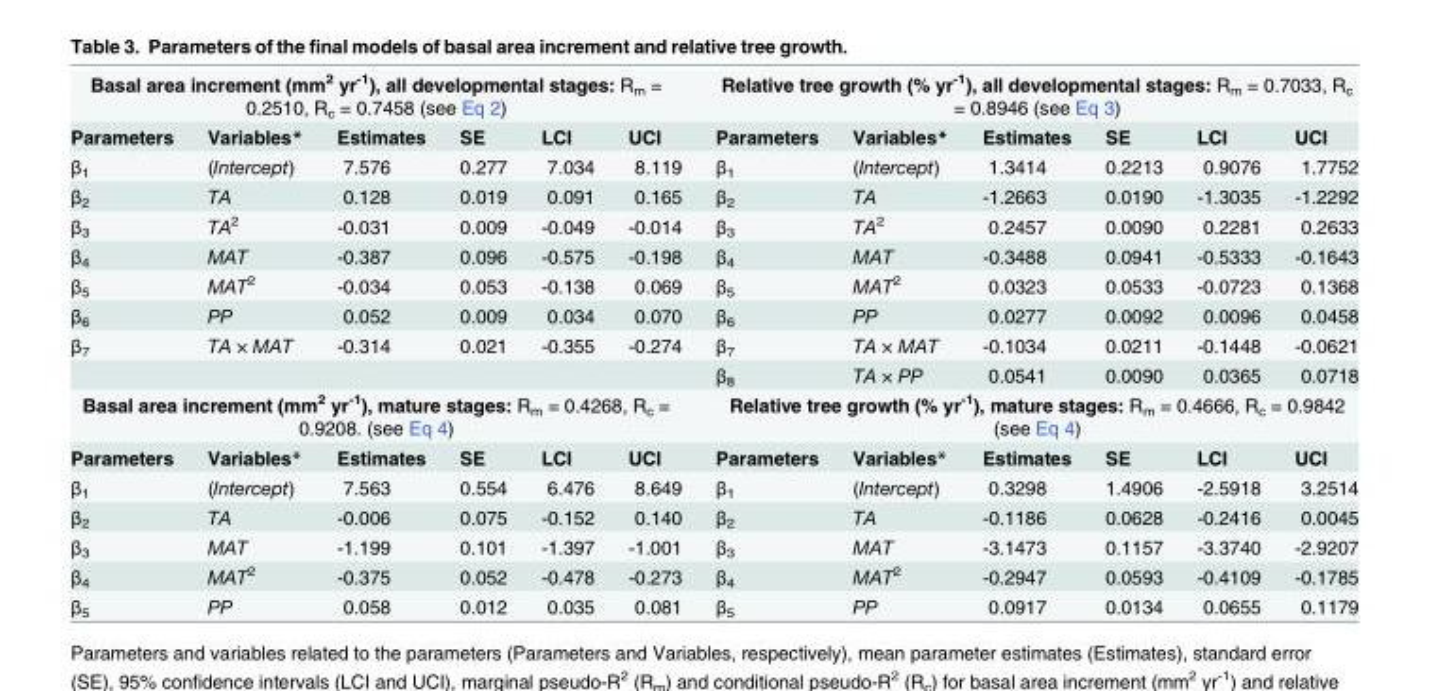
<table><tbody><tr><td colspan="6">Basal area increment (mm<sup>2</sup> yr<sup>-1</sup>), all developmental stages: R<sub>m</sub> = 0.2510, R<sub>c</sub> = 0.7458 (see Eq 2)</td><td colspan="6">Relative tree growth (% yr<sup>-1</sup>), all developmental stages: R<sub>m</sub> = 0.7033, R<sub>c</sub> = 0.8946 (see Eq 3)</td></tr><tr><td>Parameters</td><td>Variables*</td><td>Estimates</td><td>SE</td><td>LCI</td><td>UCI</td><td>Parameters</td><td>Variables*</td><td>Estimates</td><td>SE</td><td>LCI</td><td>UCI</td></tr><tr><td>β<sub>1</sub></td><td>(Intercept)</td><td>7.576</td><td>0.277</td><td>7.034</td><td>8.119</td><td>β<sub>1</sub></td><td>(Intercept)</td><td>1.3414</td><td>0.2213</td><td>0.9076</td><td>1.7752</td></tr><tr><td>β<sub>2</sub></td><td>TA</td><td>0.128</td><td>0.019</td><td>0.091</td><td>0.165</td><td>β<sub>2</sub></td><td>TA</td><td>-1.2663</td><td>0.0190</td><td>-1.3035</td><td>-1.2292</td></tr><tr><td>β<sub>3</sub></td><td>TA<sup>2</sup></td><td>-0.031</td><td>0.009</td><td>-0.049</td><td>-0.014</td><td>β<sub>3</sub></td><td>TA<sup>2</sup></td><td>0.2457</td><td>0.0090</td><td>0.2281</td><td>0.2633</td></tr><tr><td>β<sub>4</sub></td><td>MAT</td><td>-0.387</td><td>0.096</td><td>-0.575</td><td>-0.198</td><td>β<sub>4</sub></td><td>MAT</td><td>-0.3488</td><td>0.0941</td><td>-0.5333</td><td>-0.1643</td></tr><tr><td>β<sub>5</sub></td><td>MAT<sup>2</sup></td><td>-0.034</td><td>0.053</td><td>-0.138</td><td>0.069</td><td>β<sub>5</sub></td><td>MAT<sup>2</sup></td><td>0.0323</td><td>0.0533</td><td>-0.0723</td><td>0.1368</td></tr><tr><td>β<sub>6</sub></td><td>PP</td><td>0.052</td><td>0.009</td><td>0.034</td><td>0.070</td><td>β<sub>6</sub></td><td>PP</td><td>0.0277</td><td>0.0092</td><td>0.0096</td><td>0.0458</td></tr><tr><td rowspan="2">β<sub>7</sub></td><td>TA × MAT</td><td>-0.314</td><td>0.021</td><td>-0.355</td><td>-0.274</td><td>β<sub>7</sub></td><td>TA × MAT</td><td>-0.1034</td><td>0.0211</td><td>-0.1448</td><td>-0.0621</td></tr><tr><td></td><td></td><td></td><td></td><td></td><td>β<sub>8</sub></td><td>TA × PP</td><td>0.0541</td><td>0.0090</td><td>0.0365</td><td>0.0718</td></tr><tr><td colspan="6">Basal area increment (mm<sup>2</sup> yr<sup>-1</sup>), mature stages: R<sub>m</sub> = 0.4268, R<sub>c</sub> = 0.9208. (see Eq 4)</td><td colspan="6">Relative tree growth (% yr<sup>-1</sup>), mature stages: R<sub>m</sub> = 0.4666, R<sub>c</sub> = 0.9842 (see Eq 4)</td></tr><tr><td>Parameters</td><td>Variables*</td><td>Estimates</td><td>SE</td><td>LCI</td><td>UCI</td><td>Parameters</td><td>Variables*</td><td>Estimates</td><td>SE</td><td>LCI</td><td>UCI</td></tr><tr><td>β<sub>1</sub></td><td>(Intercept)</td><td>7.563</td><td>0.554</td><td>6.476</td><td>8.649</td><td>β<sub>1</sub></td><td>(Intercept)</td><td>0.3298</td><td>1.4906</td><td>-2.5918</td><td>3.2514</td></tr><tr><td>β<sub>2</sub></td><td>TA</td><td>-0.006</td><td>0.075</td><td>-0.152</td><td>0.140</td><td>β<sub>2</sub></td><td>TA</td><td>-0.1186</td><td>0.0628</td><td>-0.2416</td><td>0.0045</td></tr><tr><td>β<sub>3</sub></td><td>MAT</td><td>-1.199</td><td>0.101</td><td>-1.397</td><td>-1.001</td><td>β<sub>3</sub></td><td>MAT</td><td>-3.1473</td><td>0.1157</td><td>-3.3740</td><td>-2.9207</td></tr><tr><td>β<sub>4</sub></td><td>MAT<sup>2</sup></td><td>-0.375</td><td>0.052</td><td>-0.478</td><td>-0.273</td><td>β<sub>4</sub></td><td>MAT<sup>2</sup></td><td>-0.2947</td><td>0.0593</td><td>-0.4109</td><td>-0.1785</td></tr><tr><td>β<sub>5</sub></td><td>PP</td><td>0.058</td><td>0.012</td><td>0.035</td><td>0.081</td><td>β<sub>5</sub></td><td>PP</td><td>0.0917</td><td>0.0134</td><td>0.0655</td><td>0.1179</td></tr></tbody></table>